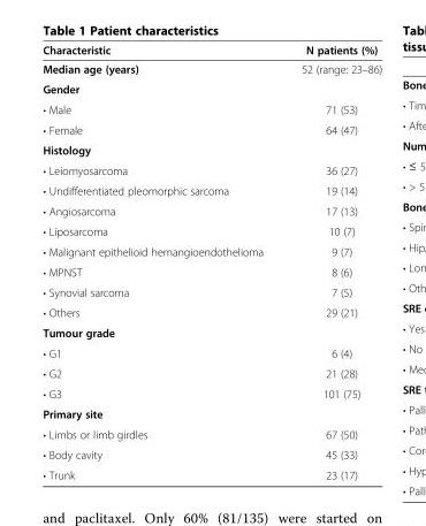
<table><thead><tr><td>Characteristic</td><td>N patients (%)</td></tr></thead><tbody><tr><td>Median age (years)</td><td>52 (range: 23–86)</td></tr><tr><td colspan="2">Gender</td></tr><tr><td>• Male</td><td>71 (53)</td></tr><tr><td>• Female</td><td>64 (47)</td></tr><tr><td colspan="2">Histology</td></tr><tr><td>• Leiomyosarcoma</td><td>36 (27)</td></tr><tr><td>• Undifferentiated pleomorphic sarcoma</td><td>19 (14)</td></tr><tr><td>• Angiosarcoma</td><td>17 (13)</td></tr><tr><td>• Liposarcoma</td><td>10 (7)</td></tr><tr><td>• Malignant epithelioid hemangioendothelioma</td><td>9 (7)</td></tr><tr><td>• MPNST</td><td>8 (6)</td></tr><tr><td>• Synovial sarcoma</td><td>7 (5)</td></tr><tr><td>• Others</td><td>29 (21)</td></tr><tr><td colspan="2">Tumour grade</td></tr><tr><td>• G1</td><td>6 (4)</td></tr><tr><td>• G2</td><td>21 (28)</td></tr><tr><td>• G3</td><td>101 (75)</td></tr><tr><td colspan="2">Primary site</td></tr><tr><td>• Limbs or limb girdles</td><td>67 (50)</td></tr><tr><td>• Body cavity</td><td>45 (33)</td></tr><tr><td>• Trunk</td><td>23 (17)</td></tr></tbody></table>